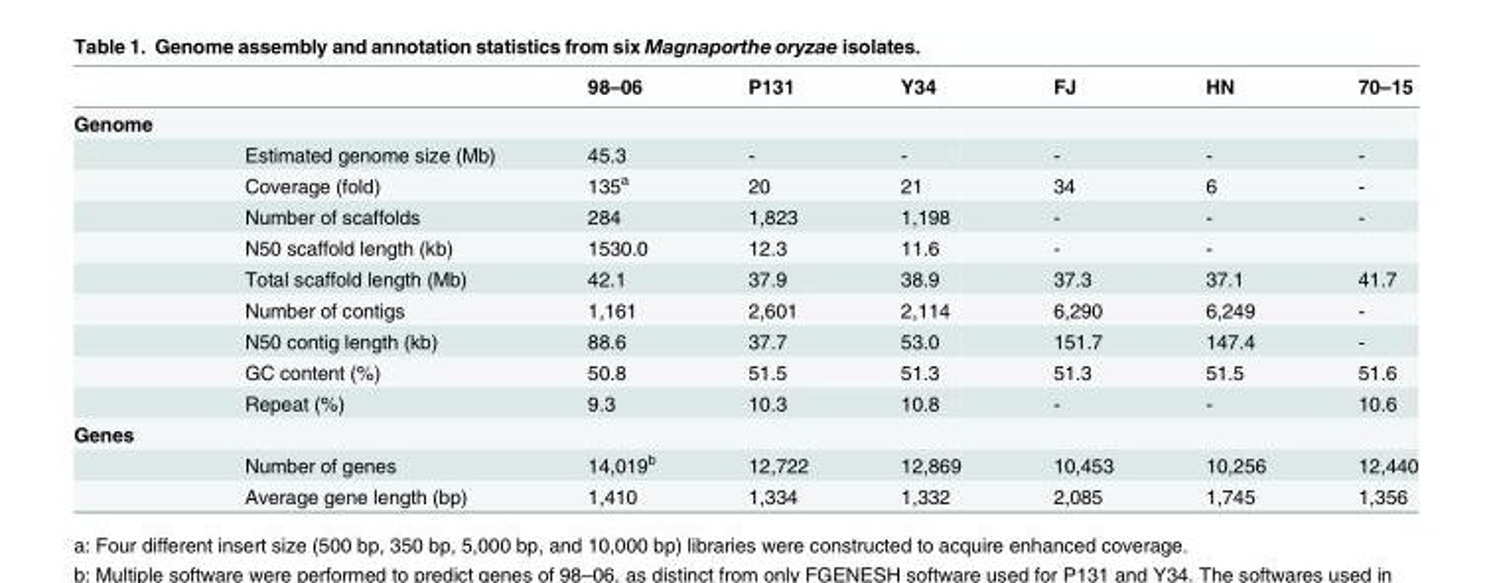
<table><thead><tr><td></td><td></td><td>98–06</td><td>P131</td><td>Y34</td><td>FJ</td><td>HN</td><td>70–15</td></tr></thead><tbody><tr><td colspan="8">Genome</td></tr><tr><td></td><td>Estimated genome size (Mb)</td><td>45.3</td><td>-</td><td>-</td><td>-</td><td>-</td><td>-</td></tr><tr><td></td><td>Coverage (fold)</td><td>135<sup>a</sup></td><td>20</td><td>21</td><td>34</td><td>6</td><td>-</td></tr><tr><td></td><td>Number of scaffolds</td><td>284</td><td>1,823</td><td>1,198</td><td>-</td><td>-</td><td>-</td></tr><tr><td></td><td>N50 scaffold length (kb)</td><td>1530.0</td><td>12.3</td><td>11.6</td><td>-</td><td>-</td><td></td></tr><tr><td></td><td>Total scaffold length (Mb)</td><td>42.1</td><td>37.9</td><td>38.9</td><td>37.3</td><td>37.1</td><td>41.7</td></tr><tr><td></td><td>Number of contigs</td><td>1,161</td><td>2,601</td><td>2,114</td><td>6,290</td><td>6,249</td><td>-</td></tr><tr><td></td><td>N50 contig length (kb)</td><td>88.6</td><td>37.7</td><td>53.0</td><td>151.7</td><td>147.4</td><td>-</td></tr><tr><td></td><td>GC content (%)</td><td>50.8</td><td>51.5</td><td>51.3</td><td>51.3</td><td>51.5</td><td>51.6</td></tr><tr><td></td><td>Repeat (%)</td><td>9.3</td><td>10.3</td><td>10.8</td><td>-</td><td>-</td><td>10.6</td></tr><tr><td colspan="8">Genes</td></tr><tr><td></td><td>Number of genes</td><td>14,019<sup>b</sup></td><td>12,722</td><td>12,869</td><td>10,453</td><td>10,256</td><td>12,440</td></tr><tr><td></td><td>Average gene length (bp)</td><td>1,410</td><td>1,334</td><td>1,332</td><td>2,085</td><td>1,745</td><td>1,356</td></tr></tbody></table>